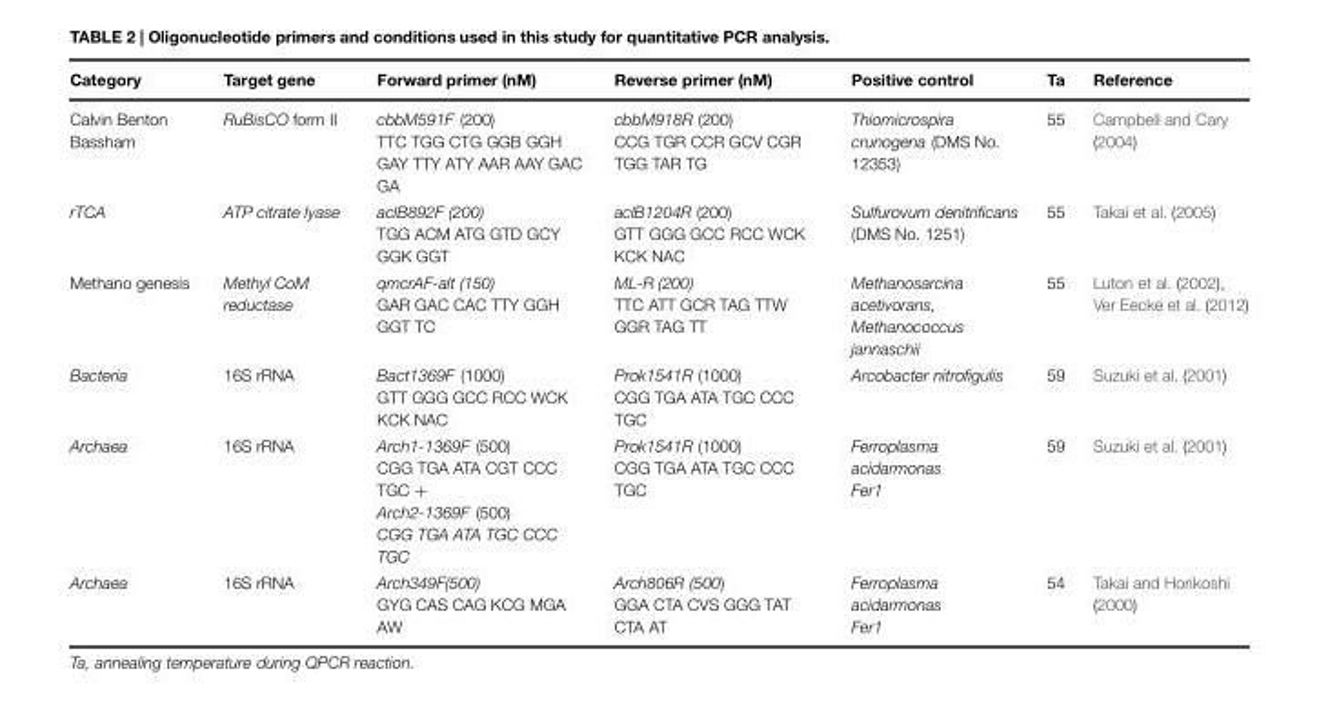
<table><thead><tr><td>Category</td><td>Target gene</td><td>Forward primer (nM)</td><td>Reverse primer (nM)</td><td>Positive control</td><td>Ta</td><td>Reference</td></tr></thead><tbody><tr><td>Calvin Benton Bassham</td><td>RuBisCO form II</td><td>cbbM591F (200) TTC TGG CTG GGB GGH GAY TTY ATY AAR AAY GAC GA</td><td>cbbM918R (200) CCG TGR CCR GCV CGR TGG TAR TG</td><td>Thiomicrospira crunogena (DMS No. 12353)</td><td>55</td><td>Campbell and Cary (2004)</td></tr><tr><td>rTCA</td><td>ATP citrate lyase</td><td>aclB892F (200) TGG ACM ATG GTD GCY GGK GGT</td><td>aclB1204R (200) GTT GGG GCC RCC WCK KCK NAC</td><td>Sulfurovum denitrificans (DMS No. 1251)</td><td>55</td><td>Takai et al. (2005)</td></tr><tr><td>Methano genesis</td><td>Methyl CoM reductase</td><td>qmcrAF-alt (150) GAR GAC CAC TTY GGH GGT TC</td><td>ML-R (200) TTC ATT GCR TAG TTW GGR TAG TT</td><td>Methanosarcina acetivorans, Methanococcus jannaschii</td><td>55</td><td>Luton et al. (2002), Ver Eecke et al. (2012)</td></tr><tr><td>Bacteria</td><td>16S rRNA</td><td>Bact1369F (1000) GTT GGG GCC RCC WCK KCK NAC</td><td>Prok1541R (1000) CGG TGA ATA TGC CCC TGC</td><td>Arcobacter nitrofigulis</td><td>59</td><td>Suzuki et al. (2001)</td></tr><tr><td>Archaea</td><td>16S rRNA</td><td>Arch1-1369F (500) CGG TGA ATA CGT CCC TGC + Arch2-1369F (500) CGG TGA ATA TGC CCC TGC</td><td>Prok1541R (1000) CGG TGA ATA TGC CCC TGC</td><td>Ferroplasma acidarmonas Fer1</td><td>59</td><td>Suzuki et al. (2001)</td></tr><tr><td>Archaea</td><td>16S rRNA</td><td>Arch349F(500) GYG CAS CAG KCG MGA AW</td><td>Arch806R (500) GGA CTA CVS GGG TAT CTA AT</td><td>Ferroplasma acidarmonas Fer1</td><td>54</td><td>Takai and Horikoshi (2000)</td></tr></tbody></table>